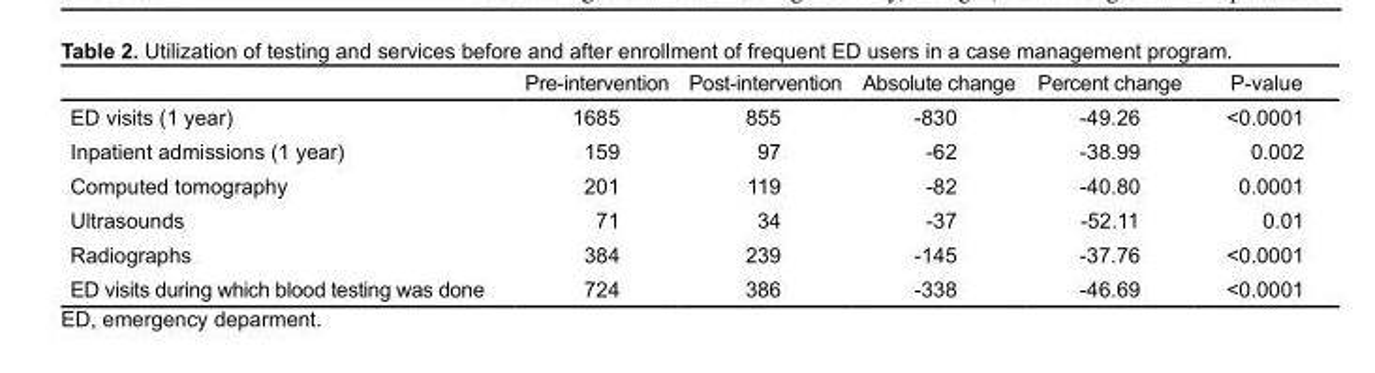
<table><thead><tr><td></td><td>Pre-intervention</td><td>Post-intervention</td><td>Absolute change</td><td>Percent change</td><td>P-value</td></tr></thead><tbody><tr><td>ED visits (1 year)</td><td>1685</td><td>855</td><td>-830</td><td>-49.26</td><td>&lt;0.0001</td></tr><tr><td>Inpatient admissions (1 year)</td><td>159</td><td>97</td><td>-62</td><td>-38.99</td><td>0.002</td></tr><tr><td>Computed tomography</td><td>201</td><td>119</td><td>-82</td><td>-40.80</td><td>0.0001</td></tr><tr><td>Ultrasounds</td><td>71</td><td>34</td><td>-37</td><td>-52.11</td><td>0.01</td></tr><tr><td>Radiographs</td><td>384</td><td>239</td><td>-145</td><td>-37.76</td><td>&lt;0.0001</td></tr><tr><td>ED visits during which blood testing was done</td><td>724</td><td>386</td><td>-338</td><td>-46.69</td><td>&lt;0.0001</td></tr></tbody></table>